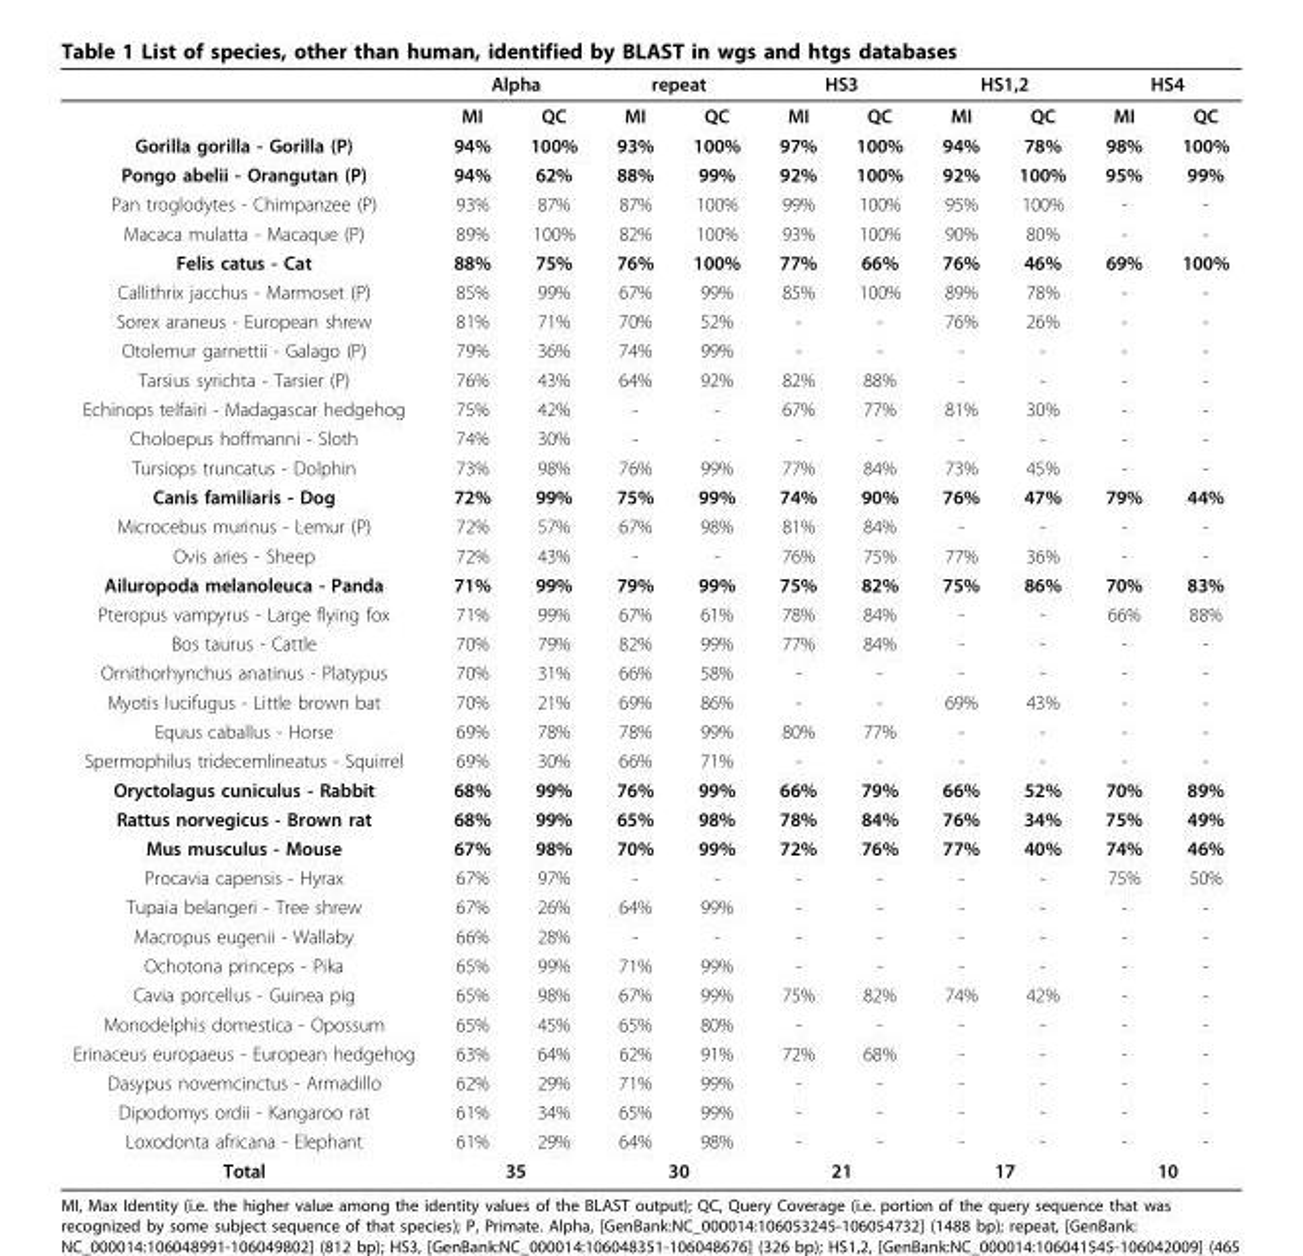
<table><thead><tr><td rowspan="2"></td><td colspan="2">Alpha</td><td colspan="2">repeat</td><td colspan="2">HS3</td><td colspan="2">HS1,2</td><td colspan="2">HS4</td></tr><tr><td>MI</td><td>QC</td><td>MI</td><td>QC</td><td>MI</td><td>QC</td><td>MI</td><td>QC</td><td>MI</td><td>QC</td></tr></thead><tbody><tr><td>Gorilla gorilla - Gorilla (P)</td><td>94%</td><td>100%</td><td>93%</td><td>100%</td><td>97%</td><td>100%</td><td>94%</td><td>78%</td><td>98%</td><td>100%</td></tr><tr><td>Pongo abelii - Orangutan (P)</td><td>94%</td><td>62%</td><td>88%</td><td>99%</td><td>92%</td><td>100%</td><td>92%</td><td>100%</td><td>95%</td><td>99%</td></tr><tr><td>Pan troglodytes - Chimpanzee (P)</td><td>93%</td><td>87%</td><td>87%</td><td>100%</td><td>99%</td><td>100%</td><td>95%</td><td>100%</td><td>-</td><td>-</td></tr><tr><td>Macaca mulatta - Macaque (P)</td><td>89%</td><td>100%</td><td>82%</td><td>100%</td><td>93%</td><td>100%</td><td>90%</td><td>80%</td><td>-</td><td>-</td></tr><tr><td>Felis catus - Cat</td><td>88%</td><td>75%</td><td>76%</td><td>100%</td><td>77%</td><td>66%</td><td>76%</td><td>46%</td><td>69%</td><td>100%</td></tr><tr><td>Callithrix jacchus - Marmoset (P)</td><td>85%</td><td>99%</td><td>67%</td><td>99%</td><td>85%</td><td>100%</td><td>89%</td><td>78%</td><td>-</td><td>-</td></tr><tr><td>Sorex araneus - European shrew</td><td>81%</td><td>71%</td><td>70%</td><td>52%</td><td>-</td><td>-</td><td>76%</td><td>26%</td><td>-</td><td>-</td></tr><tr><td>Otolemur garnettii - Galago (P)</td><td>79%</td><td>36%</td><td>74%</td><td>99%</td><td>-</td><td>-</td><td>-</td><td>-</td><td>-</td><td>-</td></tr><tr><td>Tarsius syrichta - Tarsier (P)</td><td>76%</td><td>43%</td><td>64%</td><td>92%</td><td>82%</td><td>88%</td><td>-</td><td>-</td><td>-</td><td>-</td></tr><tr><td>Echinops telfairi - Madagascar hedgehog</td><td>75%</td><td>42%</td><td>-</td><td>-</td><td>67%</td><td>77%</td><td>81%</td><td>30%</td><td>-</td><td>-</td></tr><tr><td>Choloepus hoffmanni - Sloth</td><td>74%</td><td>30%</td><td>-</td><td>-</td><td>-</td><td>-</td><td>-</td><td>-</td><td>-</td><td>-</td></tr><tr><td>Tursiops truncatus - Dolphin</td><td>73%</td><td>98%</td><td>76%</td><td>99%</td><td>77%</td><td>84%</td><td>73%</td><td>45%</td><td>-</td><td>-</td></tr><tr><td>Canis familiaris - Dog</td><td>72%</td><td>99%</td><td>75%</td><td>99%</td><td>74%</td><td>90%</td><td>76%</td><td>47%</td><td>79%</td><td>44%</td></tr><tr><td>Microcebus murinus - Lemur (P)</td><td>72%</td><td>57%</td><td>67%</td><td>98%</td><td>81%</td><td>84%</td><td>-</td><td>-</td><td>-</td><td>-</td></tr><tr><td>Ovis aries - Sheep</td><td>72%</td><td>43%</td><td>-</td><td>-</td><td>76%</td><td>75%</td><td>77%</td><td>36%</td><td>-</td><td>-</td></tr><tr><td>Ailuropoda melanoleuca - Panda</td><td>71%</td><td>99%</td><td>79%</td><td>99%</td><td>75%</td><td>82%</td><td>75%</td><td>86%</td><td>70%</td><td>83%</td></tr><tr><td>Pteropus vampyrus - Large flying fox</td><td>71%</td><td>99%</td><td>67%</td><td>61%</td><td>78%</td><td>84%</td><td>-</td><td>-</td><td>66%</td><td>88%</td></tr><tr><td>Bos taurus - Cattle</td><td>70%</td><td>79%</td><td>82%</td><td>99%</td><td>77%</td><td>84%</td><td>-</td><td>-</td><td>-</td><td>-</td></tr><tr><td>Ornithorhynchus anatinus - Platypus</td><td>70%</td><td>31%</td><td>66%</td><td>58%</td><td>-</td><td>-</td><td>-</td><td>-</td><td>-</td><td>-</td></tr><tr><td>Myotis lucifugus - Little brown bat</td><td>70%</td><td>21%</td><td>69%</td><td>86%</td><td>-</td><td>-</td><td>69%</td><td>43%</td><td>-</td><td>-</td></tr><tr><td>Equus caballus - Horse</td><td>69%</td><td>78%</td><td>78%</td><td>99%</td><td>80%</td><td>77%</td><td>-</td><td>-</td><td>-</td><td>-</td></tr><tr><td>Spermophilus tridecemlineatus - Squirrel</td><td>69%</td><td>30%</td><td>66%</td><td>71%</td><td>-</td><td>-</td><td>-</td><td>-</td><td>-</td><td>-</td></tr><tr><td>Oryctolagus cuniculus - Rabbit</td><td>68%</td><td>99%</td><td>76%</td><td>99%</td><td>66%</td><td>79%</td><td>66%</td><td>52%</td><td>70%</td><td>89%</td></tr><tr><td>Rattus norvegicus - Brown rat</td><td>68%</td><td>99%</td><td>65%</td><td>98%</td><td>78%</td><td>84%</td><td>76%</td><td>34%</td><td>75%</td><td>49%</td></tr><tr><td>Mus musculus - Mouse</td><td>67%</td><td>98%</td><td>70%</td><td>99%</td><td>72%</td><td>76%</td><td>77%</td><td>40%</td><td>74%</td><td>46%</td></tr><tr><td>Procavia capensis - Hyrax</td><td>67%</td><td>97%</td><td>-</td><td>-</td><td>-</td><td>-</td><td>-</td><td>-</td><td>75%</td><td>50%</td></tr><tr><td>Tupaia belangeri - Tree shrew</td><td>67%</td><td>26%</td><td>64%</td><td>99%</td><td>-</td><td>-</td><td>-</td><td>-</td><td>-</td><td>-</td></tr><tr><td>Macropus eugenii - Wallaby</td><td>66%</td><td>28%</td><td>-</td><td>-</td><td>-</td><td>-</td><td>-</td><td>-</td><td>-</td><td>-</td></tr><tr><td>Ochotona princeps - Pika</td><td>65%</td><td>99%</td><td>71%</td><td>99%</td><td>-</td><td>-</td><td>-</td><td>-</td><td>-</td><td>-</td></tr><tr><td>Cavia porcellus - Guinea pig</td><td>65%</td><td>98%</td><td>67%</td><td>99%</td><td>75%</td><td>82%</td><td>74%</td><td>42%</td><td>-</td><td>-</td></tr><tr><td>Monodelphis domestica - Opossum</td><td>65%</td><td>45%</td><td>65%</td><td>80%</td><td>-</td><td>-</td><td>-</td><td>-</td><td>-</td><td>-</td></tr><tr><td>Erinaceus europaeus - European hedgehog</td><td>63%</td><td>64%</td><td>62%</td><td>91%</td><td>72%</td><td>68%</td><td>-</td><td>-</td><td>-</td><td>-</td></tr><tr><td>Dasypus novemcinctus - Armadillo</td><td>62%</td><td>29%</td><td>71%</td><td>99%</td><td>-</td><td>-</td><td>-</td><td>-</td><td>-</td><td>-</td></tr><tr><td>Dipodomys ordii - Kangaroo rat</td><td>61%</td><td>34%</td><td>65%</td><td>99%</td><td>-</td><td>-</td><td>-</td><td>-</td><td>-</td><td>-</td></tr><tr><td>Loxodonta africana - Elephant</td><td>61%</td><td>29%</td><td>64%</td><td>98%</td><td>-</td><td>-</td><td>-</td><td>-</td><td>-</td><td>-</td></tr><tr><td>Total</td><td colspan="2">35</td><td colspan="2">30</td><td colspan="2">21</td><td colspan="2">17</td><td colspan="2">10</td></tr></tbody></table>